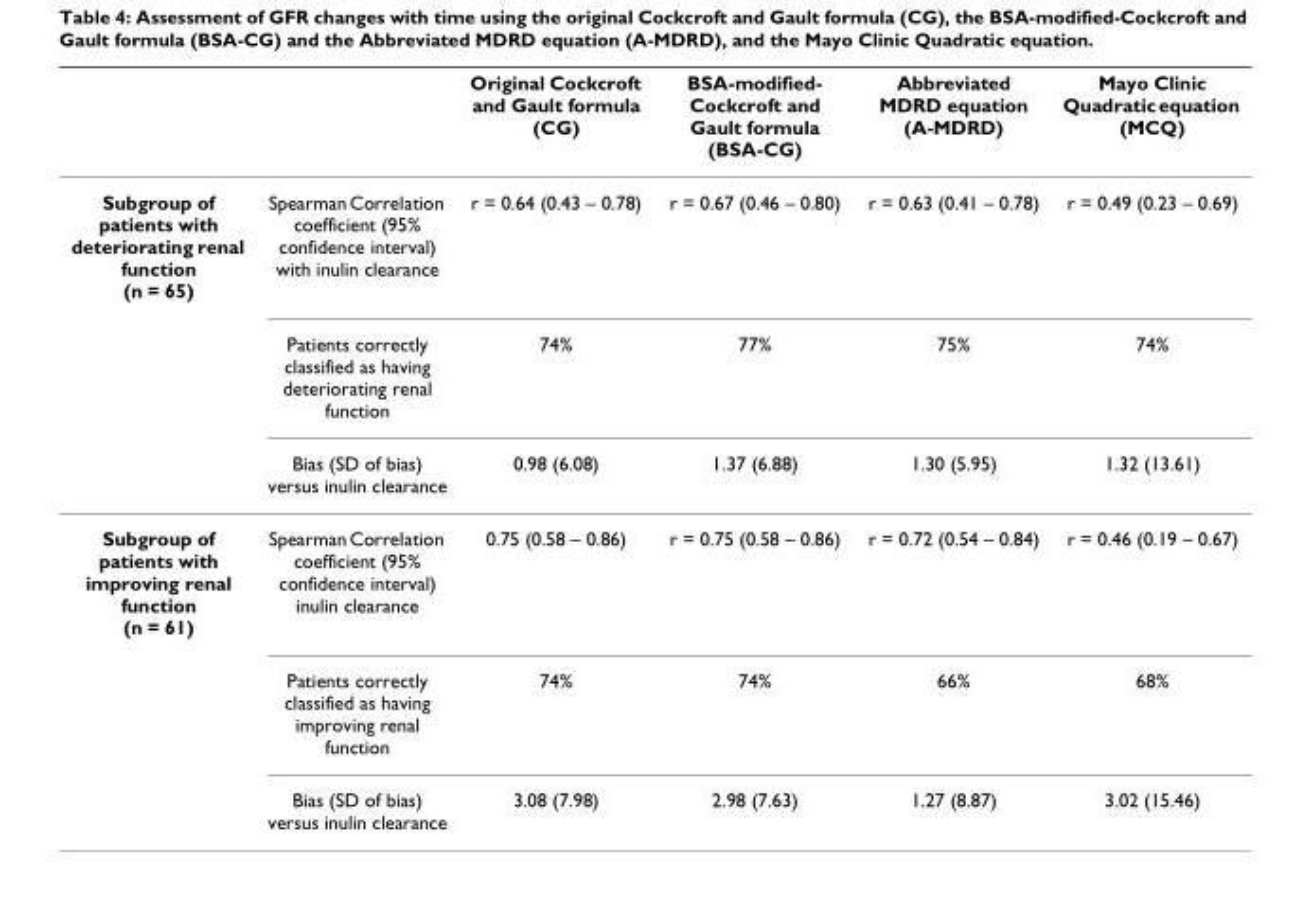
<table><thead><tr><td></td><td></td><td>Original Cockcroft and Gault formula (CG)</td><td>BSA-modified- Cockcroft and Gault formula (BSA-CG)</td><td>Abbreviated MDRD equation (A-MDRD)</td><td>Mayo Clinic Quadratic equation (MCQ)</td></tr></thead><tbody><tr><td rowspan="3">Subgroup of patients with deteriorating renal function (n = 65)</td><td>Spearman Correlation coefficient (95% confidence interval) with inulin clearance</td><td>r = 0.64 (0.43 – 0.78)</td><td>r = 0.67 (0.46 – 0.80)</td><td>r = 0.63 (0.41 – 0.78)</td><td>r = 0.49 (0.23 – 0.69)</td></tr><tr><td>Patients correctly classified as having deteriorating renal function</td><td>74%</td><td>77%</td><td>75%</td><td>74%</td></tr><tr><td>Bias (SD of bias) versus inulin clearance</td><td>0.98 (6.08)</td><td>1.37 (6.88)</td><td>1.30 (5.95)</td><td>1.32 (13.61)</td></tr><tr><td rowspan="3">Subgroup of patients with improving renal function (n = 61)</td><td>Spearman Correlation coefficient (95% confidence interval) inulin clearance</td><td>0.75 (0.58 – 0.86)</td><td>r = 0.75 (0.58 – 0.86)</td><td>r = 0.72 (0.54 – 0.84)</td><td>r = 0.46 (0.19 – 0.67)</td></tr><tr><td>Patients correctly classified as having improving renal function</td><td>74%</td><td>74%</td><td>66%</td><td>68%</td></tr><tr><td>Bias (SD of bias) versus inulin clearance</td><td>3.08 (7.98)</td><td>2.98 (7.63)</td><td>1.27 (8.87)</td><td>3.02 (15.46)</td></tr></tbody></table>